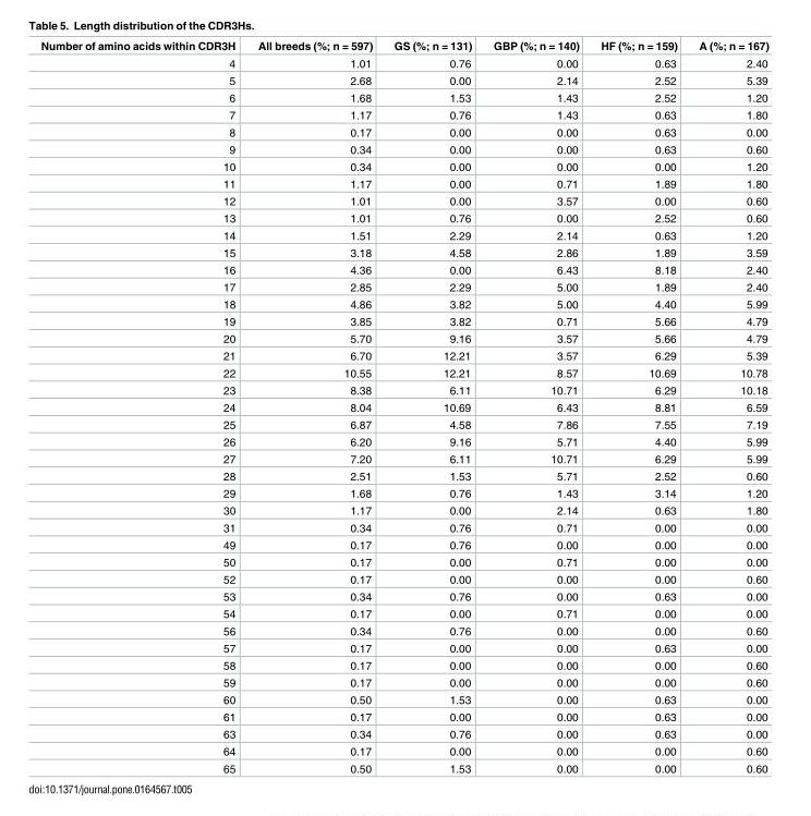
<table><thead><tr><td>Number of amino acids within CDR3H</td><td>All breeds (%; n = 597)</td><td>GS (%; n = 131)</td><td>GBP (%; n = 140)</td><td>HF (%; n = 159)</td><td>A (%; n = 167)</td></tr></thead><tbody><tr><td>4</td><td>1.01</td><td>0.76</td><td>0.00</td><td>0.63</td><td>2.40</td></tr><tr><td>5</td><td>2.68</td><td>0.00</td><td>2.14</td><td>2.52</td><td>5.39</td></tr><tr><td>6</td><td>1.68</td><td>1.53</td><td>1.43</td><td>2.52</td><td>1.20</td></tr><tr><td>7</td><td>1.17</td><td>0.76</td><td>1.43</td><td>0.63</td><td>1.80</td></tr><tr><td>8</td><td>0.17</td><td>0.00</td><td>0.00</td><td>0.63</td><td>0.00</td></tr><tr><td>9</td><td>0.34</td><td>0.00</td><td>0.00</td><td>0.63</td><td>0.60</td></tr><tr><td>10</td><td>0.34</td><td>0.00</td><td>0.00</td><td>0.00</td><td>1.20</td></tr><tr><td>11</td><td>1.17</td><td>0.00</td><td>0.71</td><td>1.89</td><td>1.80</td></tr><tr><td>12</td><td>1.01</td><td>0.00</td><td>3.57</td><td>0.00</td><td>0.60</td></tr><tr><td>13</td><td>1.01</td><td>0.76</td><td>0.00</td><td>2.52</td><td>0.60</td></tr><tr><td>14</td><td>1.51</td><td>2.29</td><td>2.14</td><td>0.63</td><td>1.20</td></tr><tr><td>15</td><td>3.18</td><td>4.58</td><td>2.86</td><td>1.89</td><td>3.59</td></tr><tr><td>16</td><td>4.36</td><td>0.00</td><td>6.43</td><td>8.18</td><td>2.40</td></tr><tr><td>17</td><td>2.85</td><td>2.29</td><td>5.00</td><td>1.89</td><td>2.40</td></tr><tr><td>18</td><td>4.86</td><td>3.82</td><td>5.00</td><td>4.40</td><td>5.99</td></tr><tr><td>19</td><td>3.85</td><td>3.82</td><td>0.71</td><td>5.66</td><td>4.79</td></tr><tr><td>20</td><td>5.70</td><td>9.16</td><td>3.57</td><td>5.66</td><td>4.79</td></tr><tr><td>21</td><td>6.70</td><td>12.21</td><td>3.57</td><td>6.29</td><td>5.39</td></tr><tr><td>22</td><td>10.55</td><td>12.21</td><td>8.57</td><td>10.69</td><td>10.78</td></tr><tr><td>23</td><td>8.38</td><td>6.11</td><td>10.71</td><td>6.29</td><td>10.18</td></tr><tr><td>24</td><td>8.04</td><td>10.69</td><td>6.43</td><td>8.81</td><td>6.59</td></tr><tr><td>25</td><td>6.87</td><td>4.58</td><td>7.86</td><td>7.55</td><td>7.19</td></tr><tr><td>26</td><td>6.20</td><td>9.16</td><td>5.71</td><td>4.40</td><td>5.99</td></tr><tr><td>27</td><td>7.20</td><td>6.11</td><td>10.71</td><td>6.29</td><td>5.99</td></tr><tr><td>28</td><td>2.51</td><td>1.53</td><td>5.71</td><td>2.52</td><td>0.60</td></tr><tr><td>29</td><td>1.68</td><td>0.76</td><td>1.43</td><td>3.14</td><td>1.20</td></tr><tr><td>30</td><td>1.17</td><td>0.00</td><td>2.14</td><td>0.63</td><td>1.80</td></tr><tr><td>31</td><td>0.34</td><td>0.76</td><td>0.71</td><td>0.00</td><td>0.00</td></tr><tr><td>49</td><td>0.17</td><td>0.76</td><td>0.00</td><td>0.00</td><td>0.00</td></tr><tr><td>50</td><td>0.17</td><td>0.00</td><td>0.71</td><td>0.00</td><td>0.00</td></tr><tr><td>52</td><td>0.17</td><td>0.00</td><td>0.00</td><td>0.00</td><td>0.60</td></tr><tr><td>53</td><td>0.34</td><td>0.76</td><td>0.00</td><td>0.63</td><td>0.00</td></tr><tr><td>54</td><td>0.17</td><td>0.00</td><td>0.71</td><td>0.00</td><td>0.00</td></tr><tr><td>56</td><td>0.34</td><td>0.76</td><td>0.00</td><td>0.00</td><td>0.60</td></tr><tr><td>57</td><td>0.17</td><td>0.00</td><td>0.00</td><td>0.63</td><td>0.00</td></tr><tr><td>58</td><td>0.17</td><td>0.00</td><td>0.00</td><td>0.00</td><td>0.60</td></tr><tr><td>59</td><td>0.17</td><td>0.00</td><td>0.00</td><td>0.00</td><td>0.60</td></tr><tr><td>60</td><td>0.50</td><td>1.53</td><td>0.00</td><td>0.63</td><td>0.00</td></tr><tr><td>61</td><td>0.17</td><td>0.00</td><td>0.00</td><td>0.63</td><td>0.00</td></tr><tr><td>63</td><td>0.34</td><td>0.76</td><td>0.00</td><td>0.63</td><td>0.00</td></tr><tr><td>64</td><td>0.17</td><td>0.00</td><td>0.00</td><td>0.00</td><td>0.60</td></tr><tr><td>65</td><td>0.50</td><td>1.53</td><td>0.00</td><td>0.00</td><td>0.60</td></tr></tbody></table>